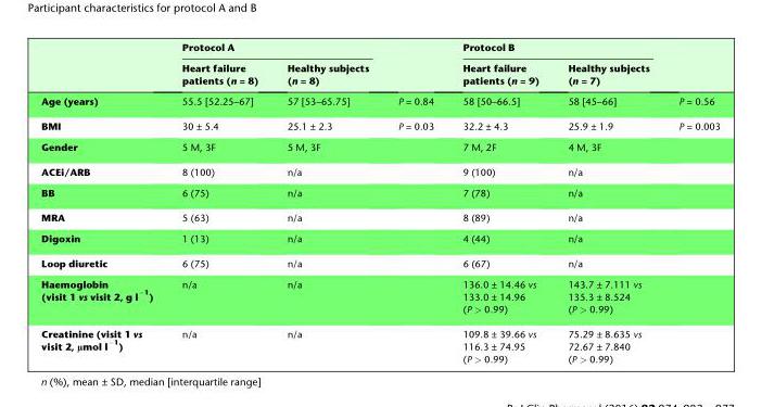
<table><thead><tr><td rowspan="2"></td><td colspan="2">Protocol A</td><td rowspan="2"></td><td colspan="2">Protocol B</td><td rowspan="2"></td></tr><tr><td>Heart failure patients (n = 8)</td><td>Healthy subjects (n = 8)</td><td>Heart failure patients (n = 9)</td><td>Healthy subjects (n = 7)</td></tr></thead><tbody><tr><td>Age (years)</td><td>55.5 [52.25–67]</td><td>57 [53–65.75]</td><td>P = 0.84</td><td>58 [50–66.5]</td><td>58 [45–66]</td><td>P = 0.56</td></tr><tr><td>BMI</td><td>30 ± 5.4</td><td>25.1 ± 2.3</td><td>P = 0.03</td><td>32.2 ± 4.3</td><td>25.9 ± 1.9</td><td>P = 0.003</td></tr><tr><td>Gender</td><td>5 M, 3F</td><td>5 M, 3F</td><td></td><td>7 M, 2F</td><td>4 M, 3F</td><td></td></tr><tr><td>ACEi/ARB</td><td>8 (100)</td><td>n/a</td><td></td><td>9 (100)</td><td>n/a</td><td></td></tr><tr><td>BB</td><td>6 (75)</td><td>n/a</td><td></td><td>7 (78)</td><td>n/a</td><td></td></tr><tr><td>MRA</td><td>5 (63)</td><td>n/a</td><td></td><td>8 (89)</td><td>n/a</td><td></td></tr><tr><td>Digoxin</td><td>1 (13)</td><td>n/a</td><td></td><td>4 (44)</td><td>n/a</td><td></td></tr><tr><td>Loop diuretic</td><td>6 (75)</td><td>n/a</td><td></td><td>6 (67)</td><td>n/a</td><td></td></tr><tr><td>Haemoglobin (visit 1 vs visit 2, g l <sup>−1</sup>)</td><td>n/a</td><td>n/a</td><td></td><td>136.0 ± 14.46 vs 133.0 ± 14.96 (P &gt; 0.99)</td><td>143.7 ± 7.111 vs 135.3 ± 8.524 (P &gt; 0.99)</td><td></td></tr><tr><td>Creatinine (visit 1 vs visit 2, μmol l <sup>−1</sup>)</td><td>n/a</td><td>n/a</td><td></td><td>109.8 ± 39.66 vs 116.3 ± 74.95 (P &gt; 0.99)</td><td>75.29 ± 8.635 vs 72.67 ± 7.840 (P &gt; 0.99)</td><td></td></tr></tbody></table>